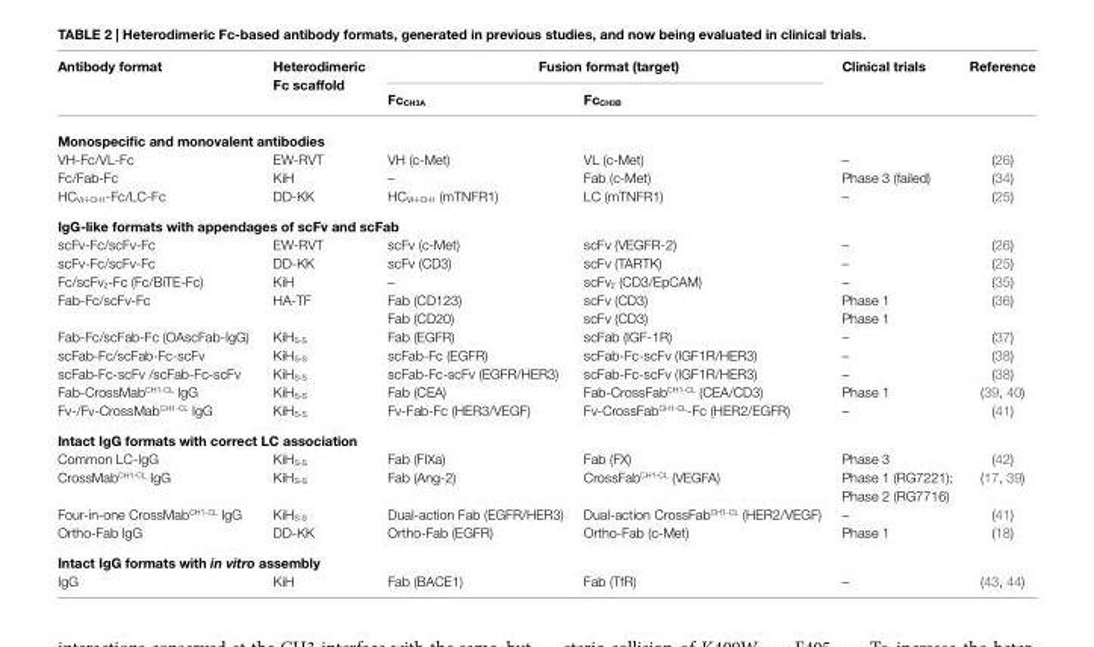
<table><thead><tr><td rowspan="2">Antibody format</td><td rowspan="2">Heterodimeric Fc scaffold</td><td colspan="2">Fusion format (target)</td><td rowspan="2">Clinical trials</td><td rowspan="2">Reference</td></tr><tr><td>Fc<sub>CH3A</sub></td><td>Fc<sub>CH3B</sub></td></tr></thead><tbody><tr><td colspan="6">Monospecific and monovalent antibodies</td></tr><tr><td>VH-Fc/VL-Fc</td><td>EW-RVT</td><td>VH (c-Met)</td><td>VL (c-Met)</td><td>–</td><td>(26)</td></tr><tr><td>Fc/Fab-Fc</td><td>KiH</td><td>–</td><td>Fab (c-Met)</td><td>Phase 3 (failed)</td><td>(34)</td></tr><tr><td>HC<sub>VH-CH1</sub>-Fc/LC-Fc</td><td>DD-KK</td><td>HC<sub>VH-CH1</sub> (mTNFR1)</td><td>LC (mTNFR1)</td><td>–</td><td>(25)</td></tr><tr><td colspan="6">igG-like formats with appendages of scFv and scFab</td></tr><tr><td>scFv-Fc/scFv-Fc</td><td>EW-RVT</td><td>scFv (c-Met)</td><td>scFv (VEGFR-2)</td><td>–</td><td>(26)</td></tr><tr><td>scFv-Fc/scFv-Fc</td><td>DD-KK</td><td>scFv (CD3)</td><td>scFv (TARTK)</td><td>–</td><td>(25)</td></tr><tr><td>Fc/scFv<sub>2</sub>-Fc (Fc/BiTE-Fc)</td><td>KiH</td><td>–</td><td>scFv<sub>2</sub> (CD3/EpCAM)</td><td>–</td><td>(35)</td></tr><tr><td rowspan="2">Fab-Fc/scFv-Fc</td><td rowspan="2">HA-TF</td><td>Fab (CD123)</td><td>scFv (CD3)</td><td>Phase 1</td><td rowspan="2">(36)</td></tr><tr><td>Fab (CD20)</td><td>scFv (CD3)</td><td>Phase 1</td></tr><tr><td>Fab-Fc/scFab-Fc (OAscFab-IgG)</td><td>KiH<sub>S-S</sub></td><td>Fab (EGFR)</td><td>scFab (IGF-1R)</td><td>–</td><td>(37)</td></tr><tr><td>scFab-Fc/scFab-Fc-scFv</td><td>KiH<sub>S-S</sub></td><td>scFab-Fc (EGFR)</td><td>scFab-Fc-scFv (IGF1R/HER3)</td><td>–</td><td>(38)</td></tr><tr><td>scFab-Fc-scFv /scFab-Fc-scFv</td><td>KiH<sub>S-S</sub></td><td>scFab-Fc-scFv (EGFR/HER3)</td><td>scFab-Fc-scFv (IGF1R/HER3)</td><td>–</td><td>(38)</td></tr><tr><td>Fab-CrossMab<sup>CH1-CL</sup> IgG</td><td>KiH<sub>S-S</sub></td><td>Fab (CEA)</td><td>Fab-CrossFab<sup>CH1-CL</sup> (CEA/CD3)</td><td>Phase 1</td><td>(39, 40)</td></tr><tr><td>Fv-/Fv-CrossMab<sup>CH1-CL</sup> IgG</td><td>KiH<sub>S-S</sub></td><td>Fv-Fab-Fc (HER3/VEGF)</td><td>Fv-CrossFab<sup>CH1-CL</sup>-Fc (HER2/EGFR)</td><td>–</td><td>(41)</td></tr><tr><td colspan="6">intact igG formats with correct LC association</td></tr><tr><td>Common LC-IgG</td><td>KiH<sub>S-S</sub></td><td>Fab (FIXa)</td><td>Fab (FX)</td><td>Phase 3</td><td>(42)</td></tr><tr><td>CrossMab<sup>CH1-CL</sup> IgG</td><td>KiH<sub>S-S</sub></td><td>Fab (Ang-2)</td><td>CrossFab<sup>CH1-CL</sup> (VEGFA)</td><td>Phase 1 (RG7221); Phase 2 (RG7716)</td><td>(17, 39)</td></tr><tr><td>Four-in-one CrossMab<sup>CH1-CL</sup> IgG</td><td>KiH<sub>S-S</sub></td><td>Dual-action Fab (EGFR/HER3)</td><td>Dual-action CrossFab<sup>CH1-CL</sup> (HER2/VEGF)</td><td>–</td><td>(41)</td></tr><tr><td>Ortho-Fab IgG</td><td>DD-KK</td><td>Ortho-Fab (EGFR)</td><td>Ortho-Fab (c-Met)</td><td>Phase 1</td><td>(18)</td></tr><tr><td colspan="6">intact igG formats with in vitro assembly</td></tr><tr><td>IgG</td><td>KiH</td><td>Fab (BACE1)</td><td>Fab (TfR)</td><td>–</td><td>(43, 44)</td></tr></tbody></table>